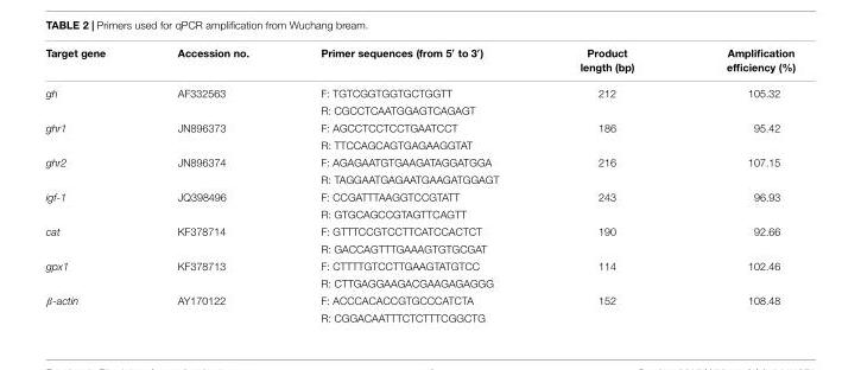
<table><thead><tr><td>Target gene</td><td>Accession no.</td><td>Primer sequences (from 5′ to 3′)</td><td>Product length (bp)</td><td>Amplification efficiency (%)</td></tr></thead><tbody><tr><td rowspan="2">gh</td><td>AF332563</td><td>F: TGTCGGTGGTGCTGGTT</td><td>212</td><td>105.32</td></tr><tr><td></td><td>R: CGCCTCAATGGAGTCAGAGT</td><td></td><td></td></tr><tr><td rowspan="2">ghr1</td><td>JN896373</td><td>F: AGCCTCCTCCTGAATCCT</td><td>186</td><td>95.42</td></tr><tr><td></td><td>R: TTCCAGCAGTGAGAAGGTAT</td><td></td><td></td></tr><tr><td rowspan="2">ghr2</td><td>JN896374</td><td>F: AGAGAATGTGAAGATAGGATGGA</td><td>216</td><td>107.15</td></tr><tr><td></td><td>R: TAGGAATGAGAATGAAGATGGAGT</td><td></td><td></td></tr><tr><td rowspan="2">igf-1</td><td>JQ398496</td><td>F: CCGATTTAAGGTCCGTATT</td><td>243</td><td>96.93</td></tr><tr><td></td><td>R: GTGCAGCCGTAGTTCAGTT</td><td></td><td></td></tr><tr><td rowspan="2">cat</td><td>KF378714</td><td>F: GTTTCCGTCCTTCATCCACTCT</td><td>190</td><td>92.66</td></tr><tr><td></td><td>R: GACCAGTTTGAAAGTGTGCGAT</td><td></td><td></td></tr><tr><td rowspan="2">gpx1</td><td>KF378713</td><td>F: CTTTTGTCCTTGAAGTATGTCC</td><td>114</td><td>102.46</td></tr><tr><td></td><td>R: CTTGAGGAAGACGAAGAGAGGG</td><td></td><td></td></tr><tr><td rowspan="2">β-actin</td><td>AY170122</td><td>F: ACCCACACCGTGCCCATCTA</td><td>152</td><td>108.48</td></tr><tr><td></td><td>R: CGGACAATTTCTCTTTCGGCTG</td><td></td><td></td></tr></tbody></table>